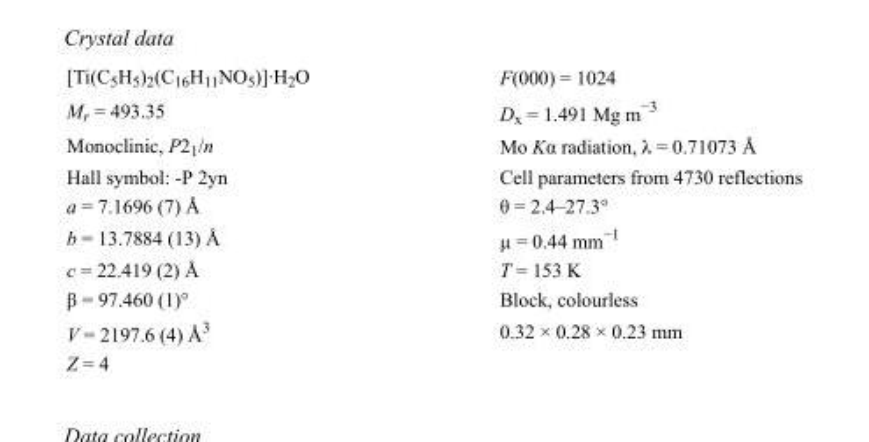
<table><tbody><tr><td>[Ti(C<sub>5</sub>H<sub>5</sub>)<sub>2</sub>(C<sub>16</sub>H<sub>11</sub>NO<sub>5</sub>)]·H<sub>2</sub>O</td><td>F(000) = 1024</td></tr><tr><td>M<sub>r</sub> = 493.35</td><td>D<sub>x</sub> = 1.491 Mg m<sup>−3</sup></td></tr><tr><td>Monoclinic, P2<sub>1</sub>/n</td><td>Mo Kα radiation, λ = 0.71073 Å</td></tr><tr><td>Hall symbol: -P 2yn</td><td>Cell parameters from 4730 reflections</td></tr><tr><td>a = 7.1696 (7) Å</td><td>θ = 2.4–27.3°</td></tr><tr><td>b = 13.7884 (13) Å</td><td>µ = 0.44 mm<sup>−1</sup></td></tr><tr><td>c = 22.419 (2) Å</td><td>T = 153 K</td></tr><tr><td>β = 97.460 (1)°</td><td>Block, colourless</td></tr><tr><td>V = 2197.6 (4) Å<sup>3</sup></td><td>0.32 × 0.28 × 0.23 mm</td></tr><tr><td>Z = 4</td><td></td></tr></tbody></table>